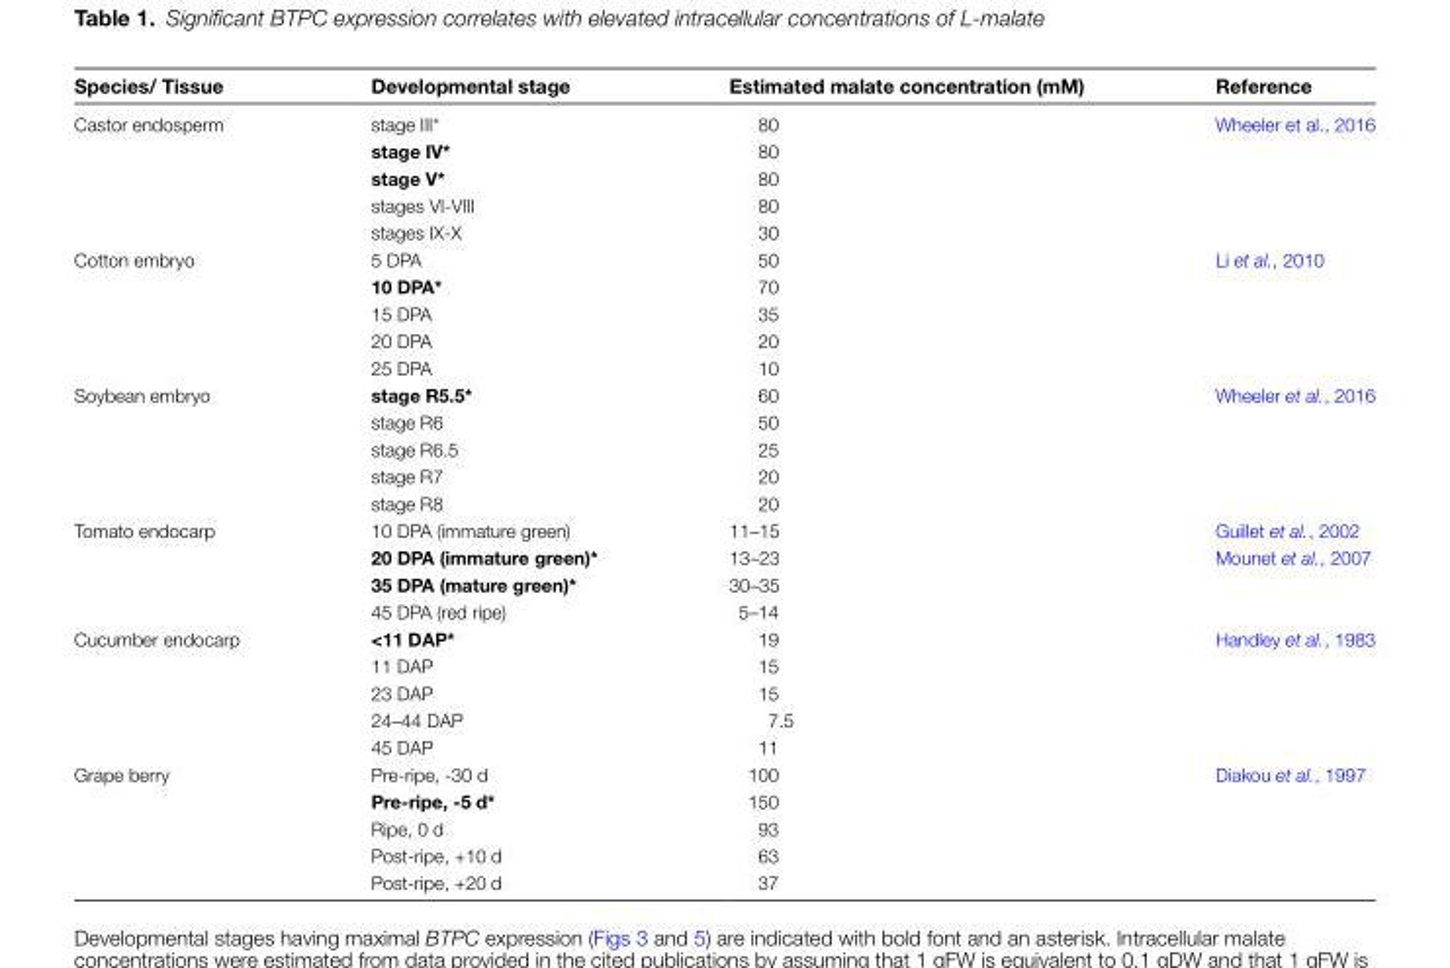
<table><thead><tr><td>Species/ Tissue</td><td>Developmental stage</td><td>Estimated malate concentration (mM)</td><td>Reference</td></tr></thead><tbody><tr><td rowspan="5">Castor endosperm</td><td>stage III*</td><td>80</td><td>Wheeler et al., 2016</td></tr><tr><td>stage IV*</td><td>80</td><td></td></tr><tr><td>stage V*</td><td>80</td><td></td></tr><tr><td>stages VI-VIII</td><td>80</td><td></td></tr><tr><td>stages IX-X</td><td>30</td><td></td></tr><tr><td rowspan="5">Cotton embryo</td><td>5 DPA</td><td>50</td><td>Li et al., 2010</td></tr><tr><td>10 DPA*</td><td>70</td><td></td></tr><tr><td>15 DPA</td><td>35</td><td></td></tr><tr><td>20 DPA</td><td>20</td><td></td></tr><tr><td>25 DPA</td><td>10</td><td></td></tr><tr><td rowspan="5">Soybean embryo</td><td>stage R5.5*</td><td>60</td><td>Wheeler et al., 2016</td></tr><tr><td>stage R6</td><td>50</td><td></td></tr><tr><td>stage R6.5</td><td>25</td><td></td></tr><tr><td>stage R7</td><td>20</td><td></td></tr><tr><td>stage R8</td><td>20</td><td></td></tr><tr><td rowspan="4">Tomato endocarp</td><td>10 DPA (immature green)</td><td>11–15</td><td>Guillet et al., 2002</td></tr><tr><td>20 DPA (immature green)*</td><td>13–23</td><td>Mounet et al., 2007</td></tr><tr><td>35 DPA (mature green)*</td><td>30–35</td><td></td></tr><tr><td>45 DPA (red ripe)</td><td>5–14</td><td></td></tr><tr><td rowspan="5">Cucumber endocarp</td><td>&lt;11 DAP*</td><td>19</td><td>Handley et al., 1983</td></tr><tr><td>11 DAP</td><td>15</td><td></td></tr><tr><td>23 DAP</td><td>15</td><td></td></tr><tr><td>24–44 DAP</td><td>7.5</td><td></td></tr><tr><td>45 DAP</td><td>11</td><td></td></tr><tr><td rowspan="5">Grape berry</td><td>Pre-ripe, -30 d</td><td>100</td><td>Diakou et al., 1997</td></tr><tr><td>Pre-ripe, -5 d*</td><td>150</td><td></td></tr><tr><td>Ripe, 0 d</td><td>93</td><td></td></tr><tr><td>Post-ripe, +10 d</td><td>63</td><td></td></tr><tr><td>Post-ripe, +20 d</td><td>37</td><td></td></tr></tbody></table>